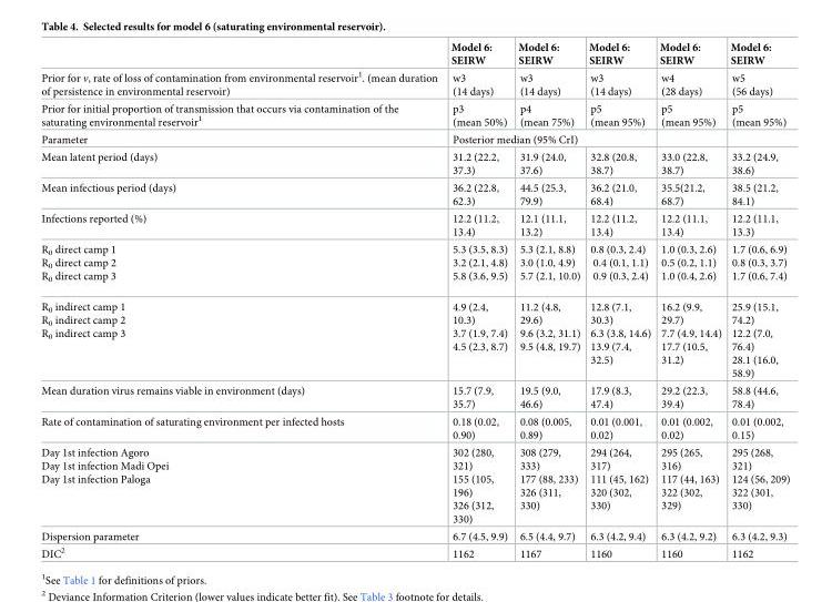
<table><thead><tr><td></td><td>Model 6: SEIRW</td><td>Model 6: SEIRW</td><td>Model 6: SEIRW</td><td>Model 6: SEIRW</td><td>Model 6: SEIRW</td></tr></thead><tbody><tr><td>Prior for 𝜐, rate of loss of contamination from environmental reservoir<sup>1</sup>. (mean duration of persistence in environmental reservoir)</td><td>w3 (14 days)</td><td>w3 (14 days)</td><td>w3 (14 days)</td><td>w4 (28 days)</td><td>w5 (56 days)</td></tr><tr><td>Prior for initial proportion of transmission that occurs via contamination of the saturating environmental reservoir<sup>1</sup></td><td>p3 (mean 50%)</td><td>p4 (mean 75%)</td><td>p5 (mean 95%)</td><td>p5 (mean 95%)</td><td>p5 (mean 95%)</td></tr><tr><td>Parameter</td><td colspan="3">Posterior median (95% CrI)</td><td></td><td></td></tr><tr><td>Mean latent period (days)</td><td>31.2 (22.2, 37.3)</td><td>31.9 (24.0, 37.6)</td><td>32.8 (20.8, 38.7)</td><td>33.0 (22.8, 38.7)</td><td>33.2 (24.9, 38.6)</td></tr><tr><td>Mean infectious period (days)</td><td>36.2 (22.8, 62.3)</td><td>44.5 (25.3, 79.9)</td><td>36.2 (21.0, 68.4)</td><td>35.5(21.2, 68.7)</td><td>38.5 (21.2, 84.1)</td></tr><tr><td>Infections reported (%)</td><td>12.2 (11.2, 13.4)</td><td>12.1 (11.1, 13.2)</td><td>12.2 (11.2, 13.4)</td><td>12.2 (11.1, 13.4)</td><td>12.2 (11.1, 13.3)</td></tr><tr><td>R<sub>0</sub> direct camp 1 R<sub>0</sub> direct camp 2 R<sub>0</sub> direct camp 3</td><td>5.3 (3.5, 8.3) 3.2 (2.1, 4.8) 5.8 (3.6, 9.5)</td><td>5.3 (2.1, 8.8) 3.0 (1.0, 4.9) 5.7 (2.1, 10.0)</td><td>0.8 (0.3, 2.4) 0.4 (0.1, 1.1) 0.9 (0.3, 2.4)</td><td>1.0 (0.3, 2.6) 0.5 (0.2, 1.1) 1.0 (0.4, 2.6)</td><td>1.7 (0.6, 6.9) 0.8 (0.3, 3.7) 1.7 (0.6, 7.4)</td></tr><tr><td>R<sub>0</sub> indirect camp 1 R<sub>0</sub> indirect camp 2 R<sub>0</sub> indirect camp 3</td><td>4.9 (2.4, 10.3) 3.7 (1.9, 7.4) 4.5 (2.3, 8.7)</td><td>11.2 (4.8, 29.6) 9.6 (3.2, 31.1) 9.5 (4.8, 19.7)</td><td>12.8 (7.1, 30.3) 6.3 (3.8, 14.6) 13.9 (7.4, 32.5)</td><td>16.2 (9.9, 29.7) 7.7 (4.9, 14.4) 17.7 (10.5, 31.2)</td><td>25.9 (15.1, 74.2) 12.2 (7.0, 76.4) 28.1 (16.0, 58.9)</td></tr><tr><td>Mean duration virus remains viable in environment (days)</td><td>15.7 (7.9, 35.7)</td><td>19.5 (9.0, 46.6)</td><td>17.9 (8.3, 47.4)</td><td>29.2 (22.3, 39.4)</td><td>58.8 (44.6, 78.4)</td></tr><tr><td>Rate of contamination of saturating environment per infected hosts</td><td>0.18 (0.02, 0.90)</td><td>0.08 (0.005, 0.89)</td><td>0.01 (0.001, 0.02)</td><td>0.01 (0.002, 0.02)</td><td>0.01 (0.002, 0.15)</td></tr><tr><td>Day 1st infection Agoro Day 1st infection Madi Opei Day 1st infection Paloga</td><td>302 (280, 321) 155 (105, 196) 326 (312, 330)</td><td>308 (279, 333) 177 (88, 233) 326 (311, 330)</td><td>294 (264, 317) 111 (45, 162) 320 (302, 330)</td><td>295 (265, 316) 117 (44, 163) 322 (302, 329)</td><td>295 (268, 321) 124 (56, 209) 322 (301, 330)</td></tr><tr><td>Dispersion parameter</td><td>6.7 (4.5, 9.9)</td><td>6.5 (4.4, 9.7)</td><td>6.3 (4.2, 9.4)</td><td>6.3 (4.2, 9.2)</td><td>6.3 (4.2, 9.3)</td></tr><tr><td>DIC<sup>2</sup></td><td>1162</td><td>1167</td><td>1160</td><td>1160</td><td>1162</td></tr></tbody></table>